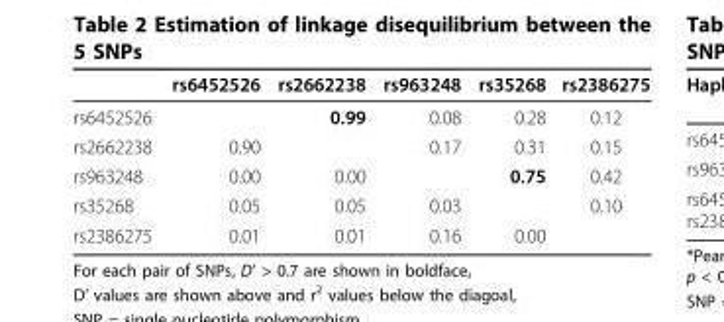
<table><thead><tr><td></td><td>rs6452526</td><td>rs2662238</td><td>rs963248</td><td>rs35268</td><td>rs2386275</td></tr></thead><tbody><tr><td>rs6452526</td><td></td><td>0.99</td><td>0.08</td><td>0.28</td><td>0.12</td></tr><tr><td>rs2662238</td><td>0.90</td><td></td><td>0.17</td><td>0.31</td><td>0.15</td></tr><tr><td>rs963248</td><td>0.00</td><td>0.00</td><td></td><td>0.75</td><td>0.42</td></tr><tr><td>rs35268</td><td>0.05</td><td>0.05</td><td>0.03</td><td></td><td>0.10</td></tr><tr><td>rs2386275</td><td>0.01</td><td>0.01</td><td>0.16</td><td>0.00</td><td></td></tr></tbody></table>